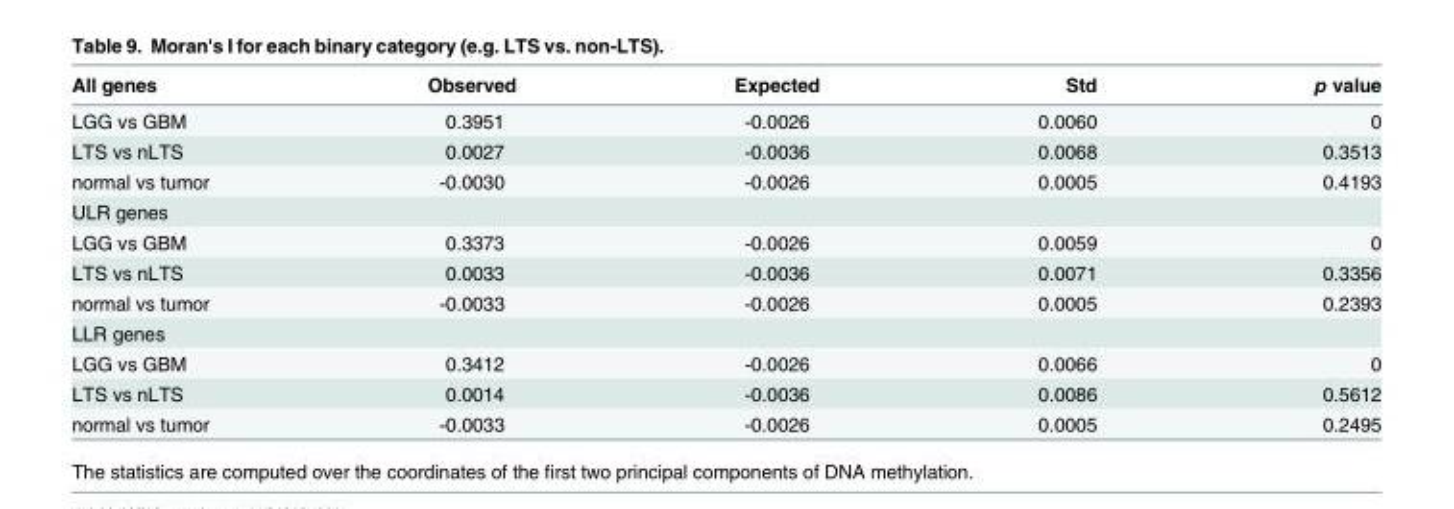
<table><thead><tr><td>All genes</td><td>Observed</td><td>Expected</td><td>Std</td><td>p value</td></tr></thead><tbody><tr><td>LGG vs GBM</td><td>0.3951</td><td>-0.0026</td><td>0.0060</td><td>0</td></tr><tr><td>LTS vs nLTS</td><td>0.0027</td><td>-0.0036</td><td>0.0068</td><td>0.3513</td></tr><tr><td>normal vs tumor</td><td>-0.0030</td><td>-0.0026</td><td>0.0005</td><td>0.4193</td></tr><tr><td colspan="5">ULR genes</td></tr><tr><td>LGG vs GBM</td><td>0.3373</td><td>-0.0026</td><td>0.0059</td><td>0</td></tr><tr><td>LTS vs nLTS</td><td>0.0033</td><td>-0.0036</td><td>0.0071</td><td>0.3356</td></tr><tr><td>normal vs tumor</td><td>-0.0033</td><td>-0.0026</td><td>0.0005</td><td>0.2393</td></tr><tr><td colspan="5">LLR genes</td></tr><tr><td>LGG vs GBM</td><td>0.3412</td><td>-0.0026</td><td>0.0066</td><td>0</td></tr><tr><td>LTS vs nLTS</td><td>0.0014</td><td>-0.0036</td><td>0.0086</td><td>0.5612</td></tr><tr><td>normal vs tumor</td><td>-0.0033</td><td>-0.0026</td><td>0.0005</td><td>0.2495</td></tr></tbody></table>